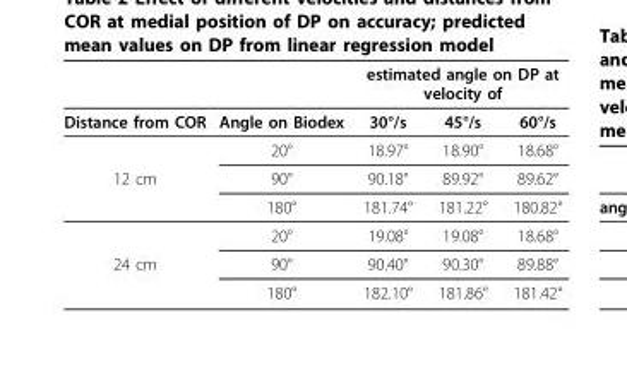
<table><thead><tr><td rowspan="2">Distance from COR</td><td rowspan="2">Angle on Biodex</td><td colspan="3">estimated angle on DP at velocity of</td></tr><tr><td>30°/s</td><td>45°/s</td><td>60°/s</td></tr></thead><tbody><tr><td></td><td>20°</td><td>18.97°</td><td>18.90°</td><td>18.68°</td></tr><tr><td rowspan="3">12 cm</td><td>90°</td><td>90.18°</td><td>89.92°</td><td>89.62°</td></tr><tr><td>180°</td><td>181.74°</td><td>181.22°</td><td>180.82°</td></tr><tr><td>20°</td><td>19.08°</td><td>19.08°</td><td>18.68°</td></tr><tr><td rowspan="2">24 cm</td><td>90°</td><td>90.40°</td><td>90.30°</td><td>89.88°</td></tr><tr><td>180°</td><td>182.10°</td><td>181.86°</td><td>181.42°</td></tr></tbody></table>